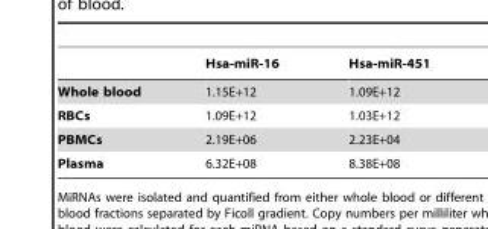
<table><thead><tr><td></td><td>Hsa-miR-16</td><td>Hsa-miR-451</td></tr></thead><tbody><tr><td>Whole blood</td><td>1.15E+12</td><td>1.09E+12</td></tr><tr><td>RBCs</td><td>1.09E+12</td><td>1.03E+12</td></tr><tr><td>PBMCs</td><td>2.19E+06</td><td>2.23E+04</td></tr><tr><td>Plasma</td><td>6.32E+08</td><td>8.38E+08</td></tr></tbody></table>